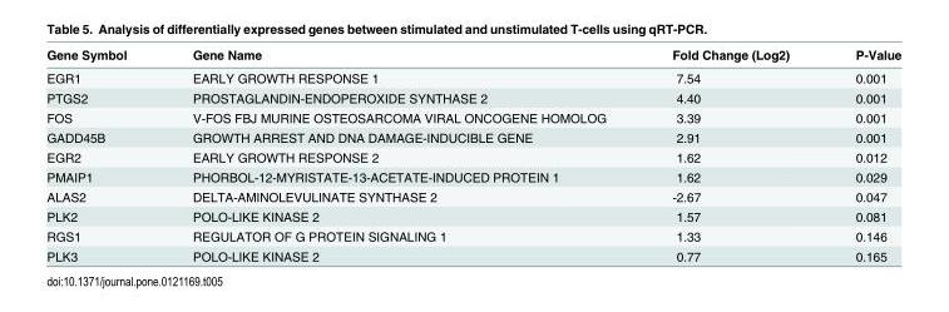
<table><thead><tr><td>Gene Symbol</td><td>Gene Name</td><td>Fold Change (Log2)</td><td>P-Value</td></tr></thead><tbody><tr><td>EGR1</td><td>EARLY GROWTH RESPONSE 1</td><td>7.54</td><td>0.001</td></tr><tr><td>PTGS2</td><td>PROSTAGLANDIN-ENDOPEROXIDE SYNTHASE 2</td><td>4.40</td><td>0.001</td></tr><tr><td>FOS</td><td>V-FOS FBJ MURINE OSTEOSARCOMA VIRAL ONCOGENE HOMOLOG</td><td>3.39</td><td>0.001</td></tr><tr><td>GADD45B</td><td>GROWTH ARREST AND DNA DAMAGE-INDUCIBLE GENE</td><td>2.91</td><td>0.001</td></tr><tr><td>EGR2</td><td>EARLY GROWTH RESPONSE 2</td><td>1.62</td><td>0.012</td></tr><tr><td>PMAIP1</td><td>PHORBOL-12-MYRISTATE-13-ACETATE-INDUCED PROTEIN 1</td><td>1.62</td><td>0.029</td></tr><tr><td>ALAS2</td><td>DELTA-AMINOLEVULINATE SYNTHASE 2</td><td>-2.67</td><td>0.047</td></tr><tr><td>PLK2</td><td>POLO-LIKE KINASE 2</td><td>1.57</td><td>0.081</td></tr><tr><td>RGS1</td><td>REGULATOR OF G PROTEIN SIGNALING 1</td><td>1.33</td><td>0.146</td></tr><tr><td>PLK3</td><td>POLO-LIKE KINASE 2</td><td>0.77</td><td>0.165</td></tr></tbody></table>